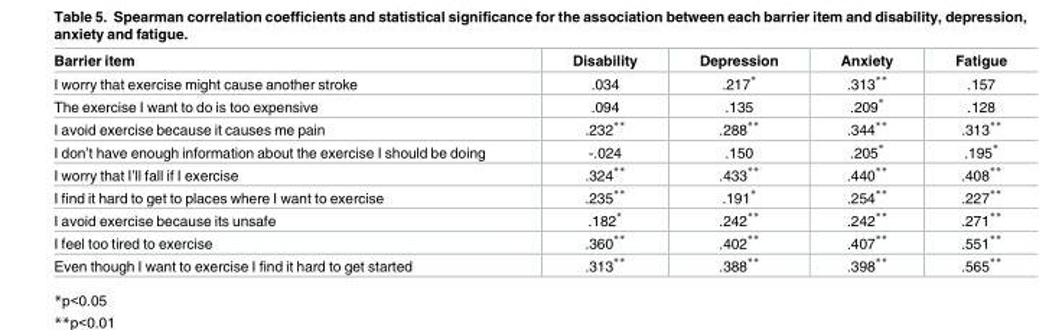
<table><thead><tr><td>Barrier item</td><td>Disability</td><td>Depression</td><td>Anxiety</td><td>Fatigue</td></tr></thead><tbody><tr><td>I worry that exercise might cause another stroke</td><td>.034</td><td>.217*</td><td>.313**</td><td>.157</td></tr><tr><td>The exercise I want to do is too expensive</td><td>.094</td><td>.135</td><td>.209*</td><td>.128</td></tr><tr><td>I avoid exercise because it causes me pain</td><td>.232**</td><td>.288**</td><td>.344**</td><td>.313**</td></tr><tr><td>I don’t have enough information about the exercise I should be doing</td><td>-.024</td><td>.150</td><td>.205*</td><td>.195*</td></tr><tr><td>I worry that I’ll fall if I exercise</td><td>.324**</td><td>.433**</td><td>.440**</td><td>.408**</td></tr><tr><td>I find it hard to get to places where I want to exercise</td><td>.235**</td><td>.191*</td><td>.254**</td><td>.227**</td></tr><tr><td>I avoid exercise because its unsafe</td><td>.182*</td><td>.242**</td><td>.242**</td><td>.271**</td></tr><tr><td>I feel too tired to exercise</td><td>.360**</td><td>.402**</td><td>.407**</td><td>.551**</td></tr><tr><td>Even though I want to exercise I find it hard to get started</td><td>.313**</td><td>.388**</td><td>.398**</td><td>.565**</td></tr></tbody></table>